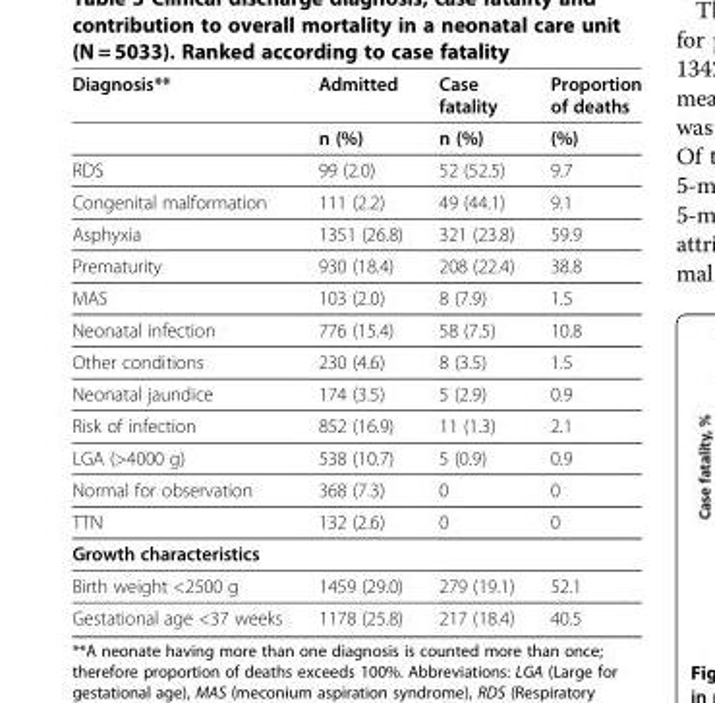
<table><thead><tr><td>Diagnosis**</td><td>Admitted</td><td>Case fatality</td><td>Proportion of deaths</td></tr></thead><tbody><tr><td></td><td>n (%)</td><td>n (%)</td><td>(%)</td></tr><tr><td>RDS</td><td>99 (2.0)</td><td>52 (52.5)</td><td>9.7</td></tr><tr><td>Congenital malformation</td><td>111 (2.2)</td><td>49 (44.1)</td><td>9.1</td></tr><tr><td>Asphyxia</td><td>1351 (26.8)</td><td>321 (23.8)</td><td>59.9</td></tr><tr><td>Prematurity</td><td>930 (18.4)</td><td>208 (22.4)</td><td>38.8</td></tr><tr><td>MAS</td><td>103 (2.0)</td><td>8 (7.9)</td><td>1.5</td></tr><tr><td>Neonatal infection</td><td>776 (15.4)</td><td>58 (7.5)</td><td>10.8</td></tr><tr><td>Other conditions</td><td>230 (4.6)</td><td>8 (3.5)</td><td>1.5</td></tr><tr><td>Neonatal jaundice</td><td>174 (3.5)</td><td>5 (2.9)</td><td>0.9</td></tr><tr><td>Risk of infection</td><td>852 (16.9)</td><td>11 (1.3)</td><td>2.1</td></tr><tr><td>LGA (&gt;4000 g)</td><td>538 (10.7)</td><td>5 (0.9)</td><td>0.9</td></tr><tr><td>Normal for observation</td><td>368 (7.3)</td><td>0</td><td>0</td></tr><tr><td>TTN</td><td>132 (2.6)</td><td>0</td><td>0</td></tr><tr><td colspan="4">Growth characteristics</td></tr><tr><td>Birth weight &lt;2500 g</td><td>1459 (29.0)</td><td>279 (19.1)</td><td>52.1</td></tr><tr><td>Gestational age &lt;37 weeks</td><td>1178 (25.8)</td><td>217 (18.4)</td><td>40.5</td></tr></tbody></table>